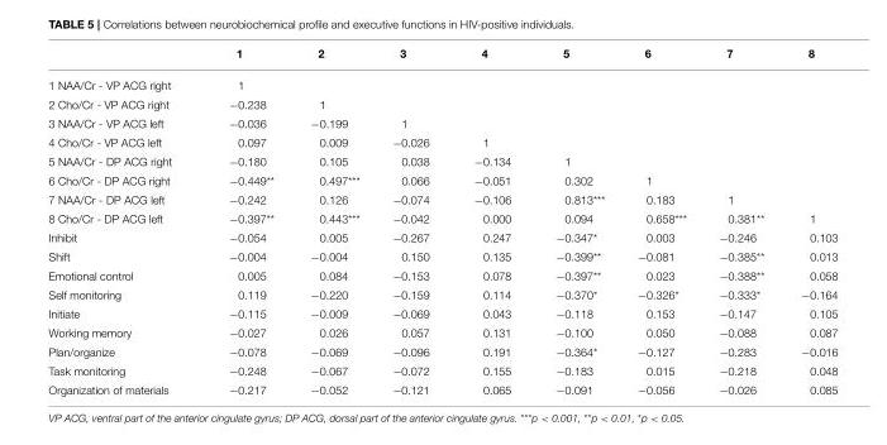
<table><thead><tr><td></td><td>1</td><td>2</td><td>3</td><td>4</td><td>5</td><td>6</td><td>7</td><td>8</td></tr></thead><tbody><tr><td>1 NAA/Cr - VP ACG right</td><td>1</td><td></td><td></td><td></td><td></td><td></td><td></td><td></td></tr><tr><td>2 Cho/Cr - VP ACG right</td><td>−0.238</td><td>1</td><td></td><td></td><td></td><td></td><td></td><td></td></tr><tr><td>3 NAA/Cr - VP ACG left</td><td>−0.036</td><td>−0.199</td><td>1</td><td></td><td></td><td></td><td></td><td></td></tr><tr><td>4 Cho/Cr - VP ACG left</td><td>0.097</td><td>0.009</td><td>−0.026</td><td>1</td><td></td><td></td><td></td><td></td></tr><tr><td>5 NAA/Cr - DP ACG right</td><td>−0.180</td><td>0.105</td><td>0.038</td><td>−0.134</td><td>1</td><td></td><td></td><td></td></tr><tr><td>6 Cho/Cr - DP ACG right</td><td>−0.449**</td><td>0.497***</td><td>0.066</td><td>−0.051</td><td>0.302</td><td>1</td><td></td><td></td></tr><tr><td>7 NAA/Cr - DP ACG left</td><td>−0.242</td><td>0.126</td><td>−0.074</td><td>−0.106</td><td>0.813***</td><td>0.183</td><td>1</td><td></td></tr><tr><td>8 Cho/Cr - DP ACG left</td><td>−0.397**</td><td>0.443***</td><td>−0.042</td><td>0.000</td><td>0.094</td><td>0.658***</td><td>0.381**</td><td>1</td></tr><tr><td>Inhibit</td><td>−0.054</td><td>0.005</td><td>−0.267</td><td>0.247</td><td>−0.347*</td><td>0.003</td><td>−0.246</td><td>0.103</td></tr><tr><td>Shift</td><td>−0.004</td><td>−0.004</td><td>0.150</td><td>0.135</td><td>−0.399**</td><td>−0.081</td><td>−0.385**</td><td>0.013</td></tr><tr><td>Emotional control</td><td>0.005</td><td>0.084</td><td>−0.153</td><td>0.078</td><td>−0.397**</td><td>0.023</td><td>−0.388**</td><td>0.058</td></tr><tr><td>Self monitoring</td><td>0.119</td><td>−0.220</td><td>−0.159</td><td>0.114</td><td>−0.370*</td><td>−0.326*</td><td>−0.333*</td><td>−0.164</td></tr><tr><td>Initiate</td><td>−0.115</td><td>−0.009</td><td>−0.069</td><td>0.043</td><td>−0.118</td><td>0.153</td><td>−0.147</td><td>0.105</td></tr><tr><td>Working memory</td><td>−0.027</td><td>0.026</td><td>0.057</td><td>0.131</td><td>−0.100</td><td>0.050</td><td>−0.088</td><td>0.087</td></tr><tr><td>Plan/organize</td><td>−0.078</td><td>−0.069</td><td>−0.096</td><td>0.191</td><td>−0.364*</td><td>−0.127</td><td>−0.283</td><td>−0.016</td></tr><tr><td>Task monitoring</td><td>−0.248</td><td>−0.067</td><td>−0.072</td><td>0.155</td><td>−0.183</td><td>0.015</td><td>−0.218</td><td>0.048</td></tr><tr><td>Organization of materials</td><td>−0.217</td><td>−0.052</td><td>−0.121</td><td>0.065</td><td>−0.091</td><td>−0.056</td><td>−0.026</td><td>0.085</td></tr></tbody></table>